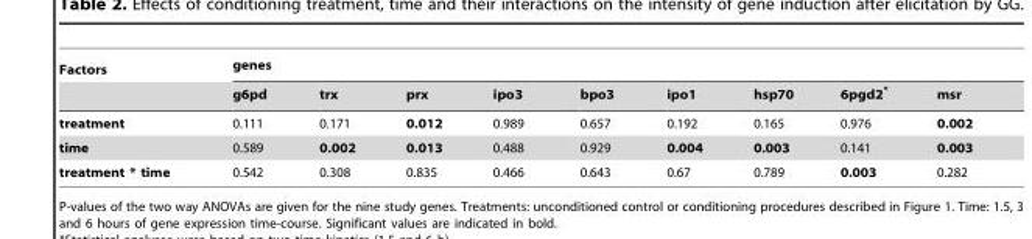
<table><thead><tr><td rowspan="2">Factors</td><td colspan="9">genes</td></tr><tr><td>g6pd</td><td>trx</td><td>prx</td><td>ipo3</td><td>bpo3</td><td>ipo1</td><td>hsp70</td><td>6pgd2*</td><td>msr</td></tr></thead><tbody><tr><td>treatment</td><td>0.111</td><td>0.171</td><td>0.012</td><td>0.989</td><td>0.657</td><td>0.192</td><td>0.165</td><td>0.976</td><td>0.002</td></tr><tr><td>time</td><td>0.589</td><td>0.002</td><td>0.013</td><td>0.488</td><td>0.929</td><td>0.004</td><td>0.003</td><td>0.141</td><td>0.003</td></tr><tr><td>treatment * time</td><td>0.542</td><td>0.308</td><td>0.835</td><td>0.466</td><td>0.643</td><td>0.67</td><td>0.789</td><td>0.003</td><td>0.282</td></tr></tbody></table>